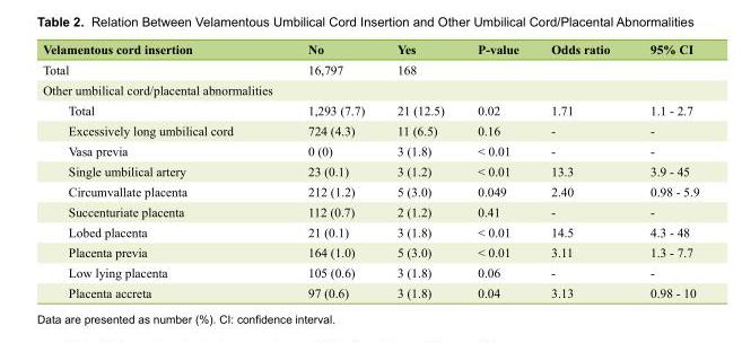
<table><thead><tr><td>Velamentous cord insertion</td><td>No</td><td>Yes</td><td>P-value</td><td>Odds ratio</td><td>95% CI</td></tr></thead><tbody><tr><td>Total</td><td>16,797</td><td>168</td><td></td><td></td><td></td></tr><tr><td colspan="6">Other umbilical cord/placental abnormalities</td></tr><tr><td>Total</td><td>1,293 (7.7)</td><td>21 (12.5)</td><td>0.02</td><td>1.71</td><td>1.1 - 2.7</td></tr><tr><td>Excessively long umbilical cord</td><td>724 (4.3)</td><td>11 (6.5)</td><td>0.16</td><td>-</td><td>-</td></tr><tr><td>Vasa previa</td><td>0 (0)</td><td>3 (1.8)</td><td>&lt; 0.01</td><td>-</td><td>-</td></tr><tr><td>Single umbilical artery</td><td>23 (0.1)</td><td>3 (1.2)</td><td>&lt; 0.01</td><td>13.3</td><td>3.9 - 45</td></tr><tr><td>Circumvallate placenta</td><td>212 (1.2)</td><td>5 (3.0)</td><td>0.049</td><td>2.40</td><td>0.98 - 5.9</td></tr><tr><td>Succenturiate placenta</td><td>112 (0.7)</td><td>2 (1.2)</td><td>0.41</td><td>-</td><td>-</td></tr><tr><td>Lobed placenta</td><td>21 (0.1)</td><td>3 (1.8)</td><td>&lt; 0.01</td><td>14.5</td><td>4.3 - 48</td></tr><tr><td>Placenta previa</td><td>164 (1.0)</td><td>5 (3.0)</td><td>&lt; 0.01</td><td>3.11</td><td>1.3 - 7.7</td></tr><tr><td>Low lying placenta</td><td>105 (0.6)</td><td>3 (1.8)</td><td>0.06</td><td>-</td><td>-</td></tr><tr><td>Placenta accreta</td><td>97 (0.6)</td><td>3 (1.8)</td><td>0.04</td><td>3.13</td><td>0.98 - 10</td></tr></tbody></table>